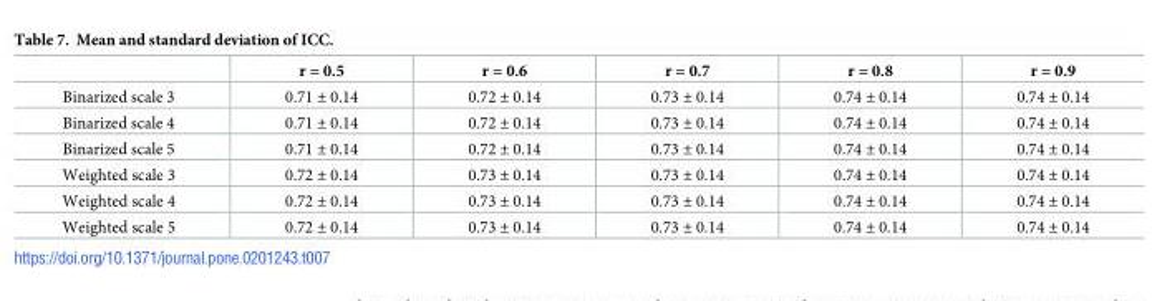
<table><thead><tr><td></td><td>r = 0.5</td><td>r = 0.6</td><td>r = 0.7</td><td>r = 0.8</td><td>r = 0.9</td></tr></thead><tbody><tr><td>Binarized scale 3</td><td>0.71 ± 0.14</td><td>0.72 ± 0.14</td><td>0.73 ± 0.14</td><td>0.74 ± 0.14</td><td>0.74 ± 0.14</td></tr><tr><td>Binarized scale 4</td><td>0.71 ± 0.14</td><td>0.72 ± 0.14</td><td>0.73 ± 0.14</td><td>0.74 ± 0.14</td><td>0.74 ± 0.14</td></tr><tr><td>Binarized scale 5</td><td>0.71 ± 0.14</td><td>0.72 ± 0.14</td><td>0.73 ± 0.14</td><td>0.74 ± 0.14</td><td>0.74 ± 0.14</td></tr><tr><td>Weighted scale 3</td><td>0.72 ± 0.14</td><td>0.73 ± 0.14</td><td>0.73 ± 0.14</td><td>0.74 ± 0.14</td><td>0.74 ± 0.14</td></tr><tr><td>Weighted scale 4</td><td>0.72 ± 0.14</td><td>0.73 ± 0.14</td><td>0.73 ± 0.14</td><td>0.74 ± 0.14</td><td>0.74 ± 0.14</td></tr><tr><td>Weighted scale 5</td><td>0.72 ± 0.14</td><td>0.73 ± 0.14</td><td>0.73 ± 0.14</td><td>0.74 ± 0.14</td><td>0.74 ± 0.14</td></tr></tbody></table>